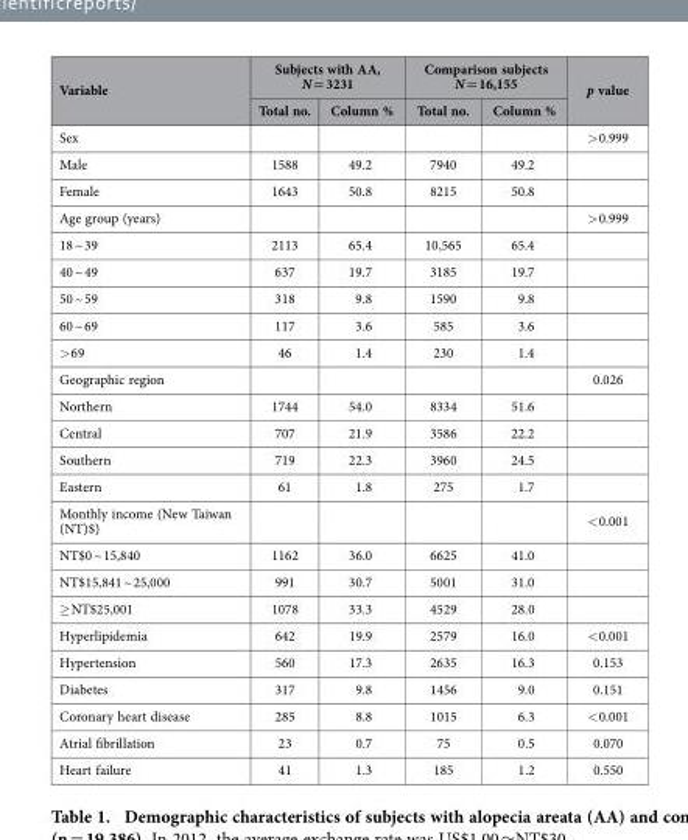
<table><thead><tr><td rowspan="2">Variable</td><td colspan="2">Subjects with AA, N = 3231</td><td colspan="2">Comparison subjects N = 16,155</td><td rowspan="2">p value</td></tr><tr><td>Total no.</td><td>Column %</td><td>Total no.</td><td>Column %</td></tr></thead><tbody><tr><td>Sex</td><td></td><td></td><td></td><td></td><td>&gt; 0.999</td></tr><tr><td>Male</td><td>1588</td><td>49.2</td><td>7940</td><td>49.2</td><td></td></tr><tr><td>Female</td><td>1643</td><td>50.8</td><td>8215</td><td>50.8</td><td></td></tr><tr><td>Age group (years)</td><td></td><td></td><td></td><td></td><td>&gt; 0.999</td></tr><tr><td>18 ~ 39</td><td>2113</td><td>65.4</td><td>10,565</td><td>65.4</td><td></td></tr><tr><td>40 ~ 49</td><td>637</td><td>19.7</td><td>3185</td><td>19.7</td><td></td></tr><tr><td>50 ~ 59</td><td>318</td><td>9.8</td><td>1590</td><td>9.8</td><td></td></tr><tr><td>60 ~ 69</td><td>117</td><td>3.6</td><td>585</td><td>3.6</td><td></td></tr><tr><td>&gt; 69</td><td>46</td><td>1.4</td><td>230</td><td>1.4</td><td></td></tr><tr><td>Geographic region</td><td></td><td></td><td></td><td></td><td>0.026</td></tr><tr><td>Northern</td><td>1744</td><td>54.0</td><td>8334</td><td>51.6</td><td></td></tr><tr><td>Central</td><td>707</td><td>21.9</td><td>3586</td><td>22.2</td><td></td></tr><tr><td>Southern</td><td>719</td><td>22.3</td><td>3960</td><td>24.5</td><td></td></tr><tr><td>Eastern</td><td>61</td><td>1.8</td><td>275</td><td>1.7</td><td></td></tr><tr><td>Monthly income (New Taiwan (NT)$)</td><td></td><td></td><td></td><td></td><td>&lt; 0.001</td></tr><tr><td>NT$0 ~ 15,840</td><td>1162</td><td>36.0</td><td>6625</td><td>41.0</td><td></td></tr><tr><td>NT$15,841 ~ 25,000</td><td>991</td><td>30.7</td><td>5001</td><td>31.0</td><td></td></tr><tr><td>≥ NT$25,001</td><td>1078</td><td>33.3</td><td>4529</td><td>28.0</td><td></td></tr><tr><td>Hyperlipidemia</td><td>642</td><td>19.9</td><td>2579</td><td>16.0</td><td>&lt; 0.001</td></tr><tr><td>Hypertension</td><td>560</td><td>17.3</td><td>2635</td><td>16.3</td><td>0.153</td></tr><tr><td>Diabetes</td><td>317</td><td>9.8</td><td>1456</td><td>9.0</td><td>0.151</td></tr><tr><td>Coronary heart disease</td><td>285</td><td>8.8</td><td>1015</td><td>6.3</td><td>&lt; 0.001</td></tr><tr><td>Atrial fibrillation</td><td>23</td><td>0.7</td><td>75</td><td>0.5</td><td>0.070</td></tr><tr><td>Heart failure</td><td>41</td><td>1.3</td><td>185</td><td>1.2</td><td>0.550</td></tr></tbody></table>